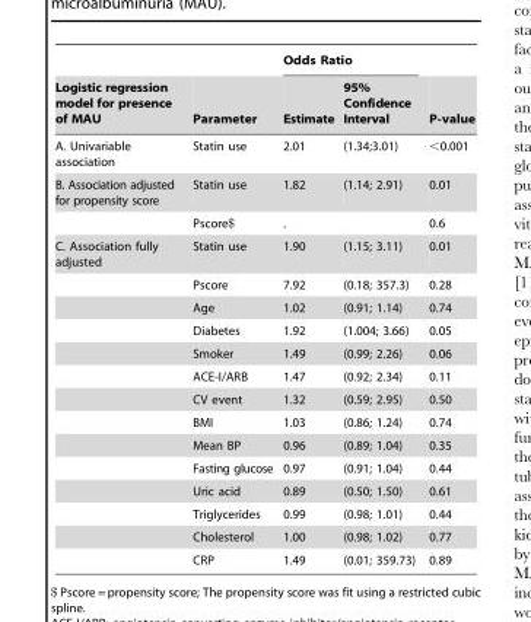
<table><thead><tr><td rowspan="2">Logistic regression model for presence of MAU</td><td rowspan="2">Parameter</td><td colspan="2">Odds Ratio</td><td rowspan="2">P-value</td></tr><tr><td>Estimate</td><td>95% Confidence Interval</td></tr></thead><tbody><tr><td>A. Univariable association</td><td>Statin use</td><td>2.01</td><td>(1.34;3.01)</td><td>&lt;0.001</td></tr><tr><td rowspan="2">B. Association adjusted for propensity score</td><td>Statin use</td><td>1.82</td><td>(1.14; 2.91)</td><td>0.01</td></tr><tr><td>Pscore$</td><td>.</td><td></td><td>0.6</td></tr><tr><td rowspan="14">C. Association fully adjusted</td><td>Statin use</td><td>1.90</td><td>(1.15; 3.11)</td><td>0.01</td></tr><tr><td>Pscore</td><td>7.92</td><td>(0.18; 357.3)</td><td>0.28</td></tr><tr><td>Age</td><td>1.02</td><td>(0.91; 1.14)</td><td>0.74</td></tr><tr><td>Diabetes</td><td>1.92</td><td>(1.004; 3.66)</td><td>0.05</td></tr><tr><td>Smoker</td><td>1.49</td><td>(0.99; 2.26)</td><td>0.06</td></tr><tr><td>ACE-I/ARB</td><td>1.47</td><td>(0.92; 2.34)</td><td>0.11</td></tr><tr><td>CV event</td><td>1.32</td><td>(0.59; 2.95)</td><td>0.50</td></tr><tr><td>BMI</td><td>1.03</td><td>(0.86; 1.24)</td><td>0.74</td></tr><tr><td>Mean BP</td><td>0.96</td><td>(0.89; 1.04)</td><td>0.35</td></tr><tr><td>Fasting glucose</td><td>0.97</td><td>(0.91; 1.04)</td><td>0.44</td></tr><tr><td>Uric acid</td><td>0.89</td><td>(0.50; 1.50)</td><td>0.61</td></tr><tr><td>Triglycerides</td><td>0.99</td><td>(0.98; 1.01)</td><td>0.44</td></tr><tr><td>Cholesterol</td><td>1.00</td><td>(0.98; 1.02)</td><td>0.77</td></tr><tr><td>CRP</td><td>1.49</td><td>(0.01; 359.73)</td><td>0.89</td></tr></tbody></table>